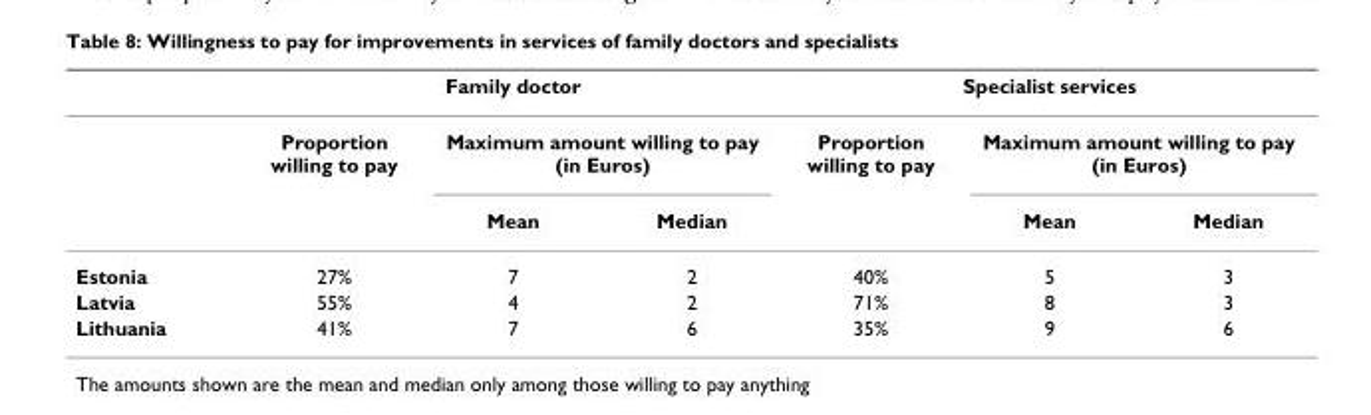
<table><thead><tr><td rowspan="3"></td><td colspan="3">Family doctor</td><td colspan="3">Specialist services</td></tr><tr><td rowspan="2">Proportion willing to pay</td><td colspan="2">Maximum amount willing to pay (in Euros)</td><td rowspan="2">Proportion willing to pay</td><td colspan="2">Maximum amount willing to pay (in Euros)</td></tr><tr><td>Mean</td><td>Median</td><td>Mean</td><td>Median</td></tr></thead><tbody><tr><td>Estonia</td><td>27%</td><td>7</td><td>2</td><td>40%</td><td>5</td><td>3</td></tr><tr><td>Latvia</td><td>55%</td><td>4</td><td>2</td><td>71%</td><td>8</td><td>3</td></tr><tr><td>Lithuania</td><td>41%</td><td>7</td><td>6</td><td>35%</td><td>9</td><td>6</td></tr></tbody></table>